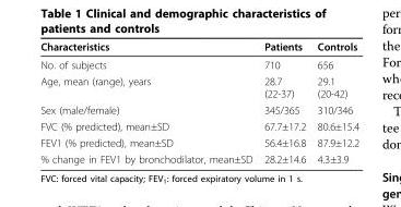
<table><thead><tr><td>Characteristics</td><td>Patients</td><td>Controls</td></tr></thead><tbody><tr><td>No. of subjects</td><td>710</td><td>656</td></tr><tr><td>Age, mean (range), years</td><td>28.7 (22-37)</td><td>29.1 (20-42)</td></tr><tr><td>Sex (male/female)</td><td>345/365</td><td>310/346</td></tr><tr><td>FVC (% predicted), mean±SD</td><td>67.7±17.2</td><td>80.6±15.4</td></tr><tr><td>FEV1 (% predicted), mean±SD</td><td>56.4±16.8</td><td>87.9±12.2</td></tr><tr><td>% change in FEV1 by bronchodilator, mean±SD</td><td>28.2±14.6</td><td>4.3±3.9</td></tr></tbody></table>